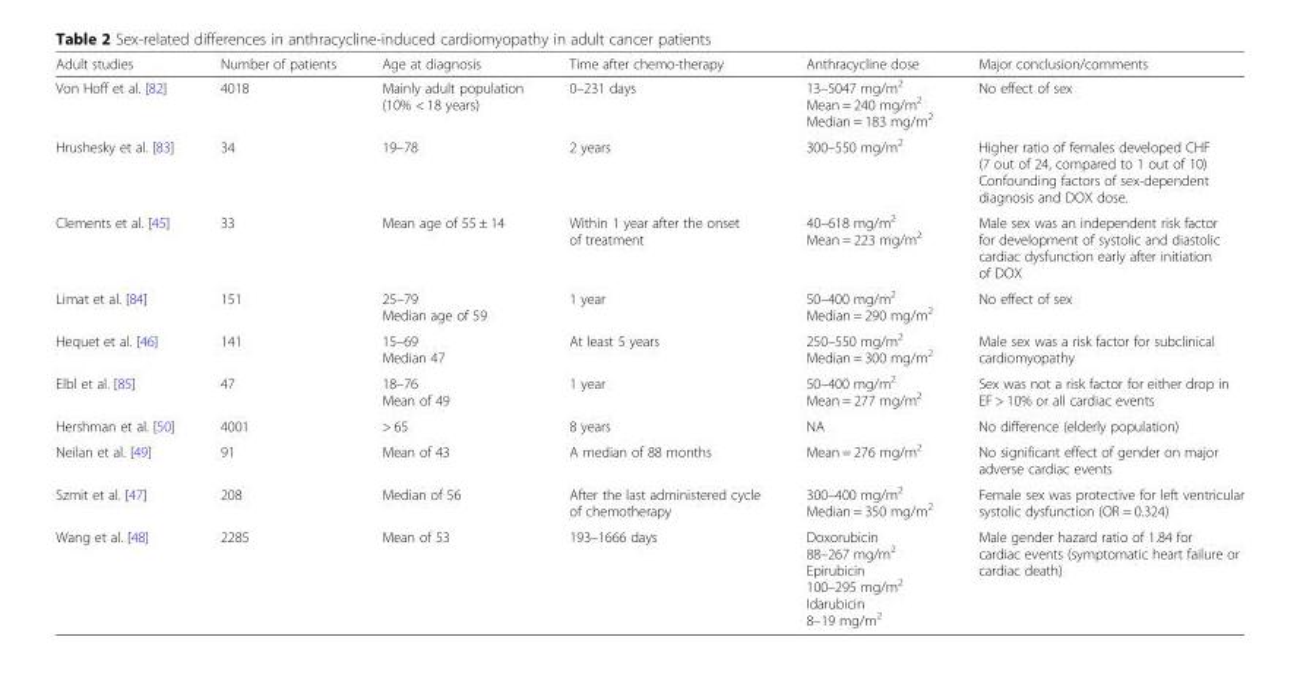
<table><thead><tr><td>Adult studies</td><td>Number of patients</td><td>Age at diagnosis</td><td>Time after chemo-therapy</td><td>Anthracycline dose</td><td>Major conclusion/comments</td></tr></thead><tbody><tr><td>Von Hoff et al. [82]</td><td>4018</td><td>Mainly adult population (10% &lt; 18 years)</td><td>0–231 days</td><td>13–5047 mg/m<sup>2</sup> Mean = 240 mg/m<sup>2</sup> Median = 183 mg/m<sup>2</sup></td><td>No effect of sex</td></tr><tr><td>Hrushesky et al. [83]</td><td>34</td><td>19–78</td><td>2 years</td><td>300–550 mg/m<sup>2</sup></td><td>Higher ratio of females developed CHF (7 out of 24, compared to 1 out of 10) Confounding factors of sex-dependent diagnosis and DOX dose.</td></tr><tr><td>Clements et al. [45]</td><td>33</td><td>Mean age of 55 ± 14</td><td>Within 1 year after the onset of treatment</td><td>40–618 mg/m<sup>2</sup> Mean = 223 mg/m<sup>2</sup></td><td>Male sex was an independent risk factor for development of systolic and diastolic cardiac dysfunction early after initiation of DOX</td></tr><tr><td>Limat et al. [84]</td><td>151</td><td>25–79 Median age of 59</td><td>1 year</td><td>50–400 mg/m<sup>2</sup> Median = 290 mg/m<sup>2</sup></td><td>No effect of sex</td></tr><tr><td>Hequet et al. [46]</td><td>141</td><td>15–69 Median 47</td><td>At least 5 years</td><td>250–550 mg/m<sup>2</sup> Median = 300 mg/m<sup>2</sup></td><td>Male sex was a risk factor for subclinical cardiomyopathy</td></tr><tr><td>Elbl et al. [85]</td><td>47</td><td>18–76 Mean of 49</td><td>1 year</td><td>50–400 mg/m<sup>2</sup> Mean = 277 mg/m<sup>2</sup></td><td>Sex was not a risk factor for either drop in EF &gt; 10% or all cardiac events</td></tr><tr><td>Hershman et al. [50]</td><td>4001</td><td>&gt; 65</td><td>8 years</td><td>NA</td><td>No difference (elderly population)</td></tr><tr><td>Neilan et al. [49]</td><td>91</td><td>Mean of 43</td><td>A median of 88 months</td><td>Mean = 276 mg/m<sup>2</sup></td><td>No significant effect of gender on major adverse cardiac events</td></tr><tr><td>Szmit et al. [47]</td><td>208</td><td>Median of 56</td><td>After the last administered cycle of chemotherapy</td><td>300–400 mg/m<sup>2</sup> Median = 350 mg/m<sup>2</sup></td><td>Female sex was protective for left ventricular systolic dysfunction (OR = 0.324)</td></tr><tr><td>Wang et al. [48]</td><td>2285</td><td>Mean of 53</td><td>193–1666 days</td><td>Doxorubicin 88–267 mg/m<sup>2</sup> Epirubicin 100–295 mg/m<sup>2</sup> Idarubicin 8–19 mg/m<sup>2</sup></td><td>Male gender hazard ratio of 1.84 for cardiac events (symptomatic heart failure or cardiac death)</td></tr></tbody></table>